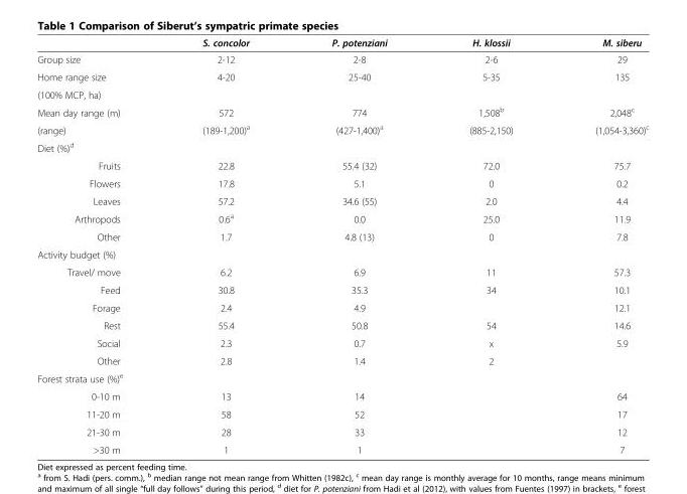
<table><thead><tr><td></td><td>S. concolor</td><td>P. potenziani</td><td>H. klossii</td><td>M. siberu</td></tr></thead><tbody><tr><td>Group size</td><td>2-12</td><td>2-8</td><td>2-6</td><td>29</td></tr><tr><td>Home range size</td><td>4-20</td><td>25-40</td><td>5-35</td><td>135</td></tr><tr><td colspan="5">(100% MCP, ha)</td></tr><tr><td>Mean day range (m)</td><td>572</td><td>774</td><td>1,508<sup>b</sup></td><td>2,048<sup>c</sup></td></tr><tr><td>(range)</td><td>(189-1,200)<sup>a</sup></td><td>(427-1,400)<sup>a</sup></td><td>(885-2,150)</td><td>(1,054-3,360)<sup>c</sup></td></tr><tr><td colspan="5">Diet (%)<sup>d</sup></td></tr><tr><td>Fruits</td><td>22.8</td><td>55.4 (32)</td><td>72.0</td><td>75.7</td></tr><tr><td>Flowers</td><td>17.8</td><td>5.1</td><td>0</td><td>0.2</td></tr><tr><td>Leaves</td><td>57.2</td><td>34.6 (55)</td><td>2.0</td><td>4.4</td></tr><tr><td>Arthropods</td><td>0.6<sup>a</sup></td><td>0.0</td><td>25.0</td><td>11.9</td></tr><tr><td>Other</td><td>1.7</td><td>4.8 (13)</td><td>0</td><td>7.8</td></tr><tr><td colspan="5">Activity budget (%)</td></tr><tr><td>Travel/ move</td><td>6.2</td><td>6.9</td><td>11</td><td>57.3</td></tr><tr><td>Feed</td><td>30.8</td><td>35.3</td><td>34</td><td>10.1</td></tr><tr><td>Forage</td><td>2.4</td><td>4.9</td><td></td><td>12.1</td></tr><tr><td>Rest</td><td>55.4</td><td>50.8</td><td>54</td><td>14.6</td></tr><tr><td>Social</td><td>2.3</td><td>0.7</td><td>x</td><td>5.9</td></tr><tr><td>Other</td><td>2.8</td><td>1.4</td><td>2</td><td></td></tr><tr><td colspan="5">Forest strata use (%)<sup>e</sup></td></tr><tr><td>0-10 m</td><td>13</td><td>14</td><td></td><td>64</td></tr><tr><td>11-20 m</td><td>58</td><td>52</td><td></td><td>17</td></tr><tr><td>21-30 m</td><td>28</td><td>33</td><td></td><td>12</td></tr><tr><td>&gt;30 m</td><td>1</td><td>1</td><td></td><td>7</td></tr></tbody></table>